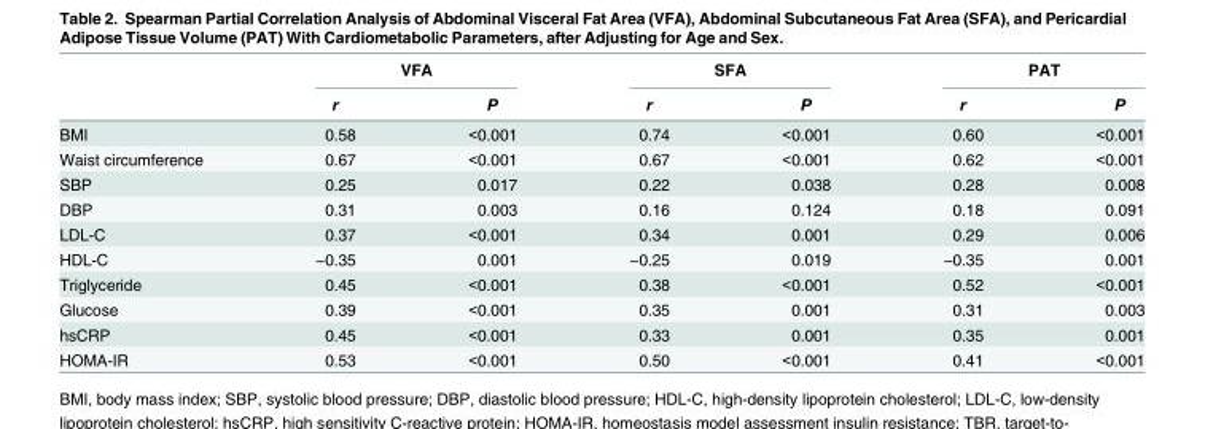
<table><thead><tr><td rowspan="2"></td><td colspan="2">VFA</td><td colspan="2">SFA</td><td colspan="2">PAT</td></tr><tr><td>r</td><td>P</td><td>r</td><td>P</td><td>r</td><td>P</td></tr></thead><tbody><tr><td>BMI</td><td>0.58</td><td>&lt;0.001</td><td>0.74</td><td>&lt;0.001</td><td>0.60</td><td>&lt;0.001</td></tr><tr><td>Waist circumference</td><td>0.67</td><td>&lt;0.001</td><td>0.67</td><td>&lt;0.001</td><td>0.62</td><td>&lt;0.001</td></tr><tr><td>SBP</td><td>0.25</td><td>0.017</td><td>0.22</td><td>0.038</td><td>0.28</td><td>0.008</td></tr><tr><td>DBP</td><td>0.31</td><td>0.003</td><td>0.16</td><td>0.124</td><td>0.18</td><td>0.091</td></tr><tr><td>LDL-C</td><td>0.37</td><td>&lt;0.001</td><td>0.34</td><td>0.001</td><td>0.29</td><td>0.006</td></tr><tr><td>HDL-C</td><td>−0.35</td><td>0.001</td><td>−0.25</td><td>0.019</td><td>−0.35</td><td>0.001</td></tr><tr><td>Triglyceride</td><td>0.45</td><td>&lt;0.001</td><td>0.38</td><td>&lt;0.001</td><td>0.52</td><td>&lt;0.001</td></tr><tr><td>Glucose</td><td>0.39</td><td>&lt;0.001</td><td>0.35</td><td>0.001</td><td>0.31</td><td>0.003</td></tr><tr><td>hsCRP</td><td>0.45</td><td>&lt;0.001</td><td>0.33</td><td>0.001</td><td>0.35</td><td>0.001</td></tr><tr><td>HOMA-IR</td><td>0.53</td><td>&lt;0.001</td><td>0.50</td><td>&lt;0.001</td><td>0.41</td><td>&lt;0.001</td></tr></tbody></table>